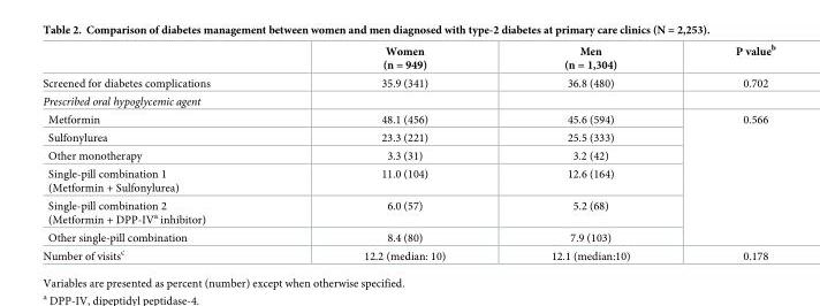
<table><thead><tr><td></td><td>Women (n = 949)</td><td>Men (n = 1,304)</td><td>P value<sup>b</sup></td></tr></thead><tbody><tr><td>Screened for diabetes complications</td><td>35.9 (341)</td><td>36.8 (480)</td><td>0.702</td></tr><tr><td colspan="4">Prescribed oral hypoglycemic agent</td></tr><tr><td>Metformin</td><td>48.1 (456)</td><td>45.6 (594)</td><td rowspan="6">0.566</td></tr><tr><td>Sulfonylurea</td><td>23.3 (221)</td><td>25.5 (333)</td></tr><tr><td>Other monotherapy</td><td>3.3 (31)</td><td>3.2 (42)</td></tr><tr><td>Single-pill combination 1 (Metformin + Sulfonylurea)</td><td>11.0 (104)</td><td>12.6 (164)</td></tr><tr><td>Single-pill combination 2 (Metformin + DPP-IV<sup>a</sup> inhibitor)</td><td>6.0 (57)</td><td>5.2 (68)</td></tr><tr><td>Other single-pill combination</td><td>8.4 (80)</td><td>7.9 (103)</td></tr><tr><td>Number of visits<sup>c</sup></td><td>12.2 (median: 10)</td><td>12.1 (median:10)</td><td>0.178</td></tr></tbody></table>